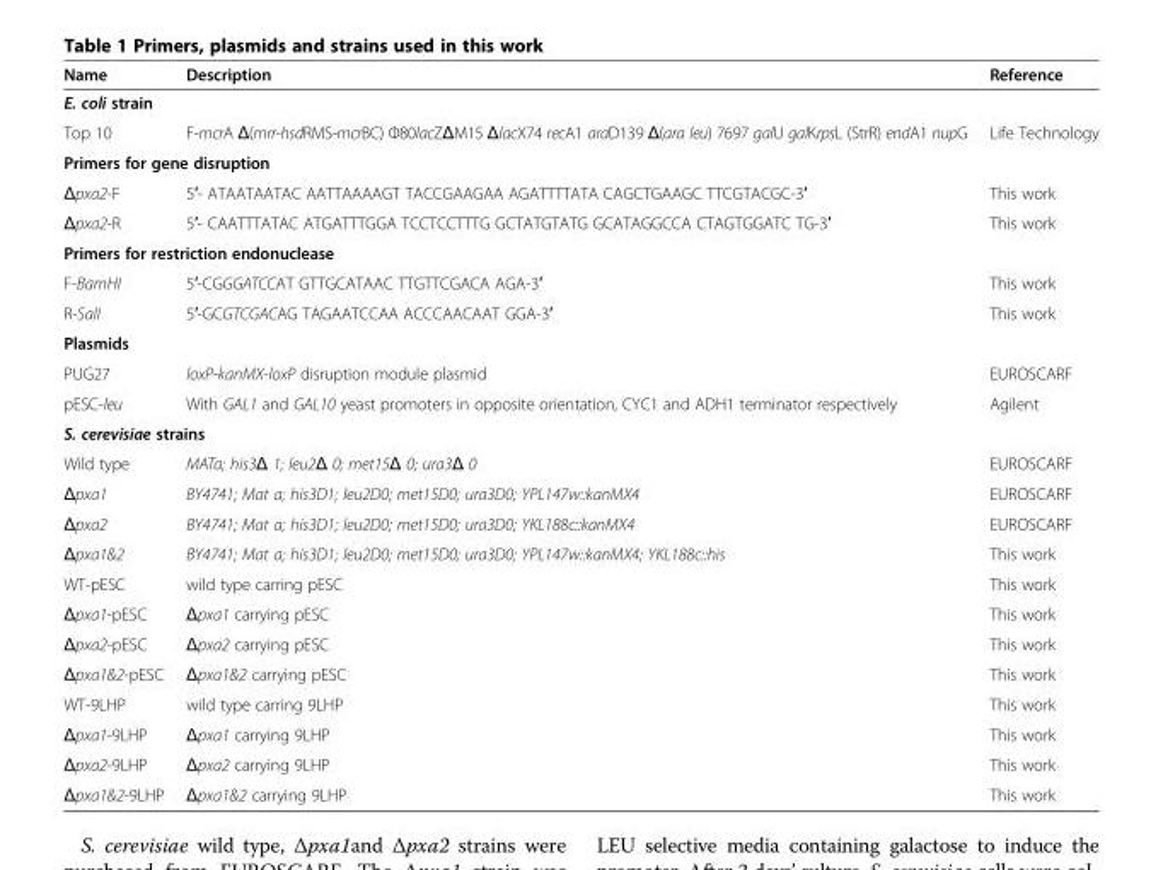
<table><thead><tr><td>Name</td><td>Description</td><td>Reference</td></tr></thead><tbody><tr><td colspan="3">E. coli strain</td></tr><tr><td>Top 10</td><td>F-mcrA Δ(mrr-hsdRMS-mcrBC) Φ80lacZΔM15 ΔlacX74 recA1 araD139 Δ(ara leu) 7697 galU galKrpsL (StrR) endA1 nupG</td><td>Life Technology</td></tr><tr><td colspan="3">Primers for gene disruption</td></tr><tr><td>Δpxa2-F</td><td>5′- ATAATAATAC AATTAAAAGT TACCGAAGAA AGATTTTATA CAGCTGAAGC TTCGTACGC-3′</td><td>This work</td></tr><tr><td>Δpxa2-R</td><td>5′- CAATTTATAC ATGATTTGGA TCCTCCTTTG GCTATGTATG GCATAGGCCA CTAGTGGATC TG-3′</td><td>This work</td></tr><tr><td colspan="3">Primers for restriction endonuclease</td></tr><tr><td>F-BamHI</td><td>5′-CGGGATCCAT GTTGCATAAC TTGTTCGACA AGA-3′</td><td>This work</td></tr><tr><td>R-SalI</td><td>5′-GCGTCGACAG TAGAATCCAA ACCCAACAAT GGA-3′</td><td>This work</td></tr><tr><td colspan="3">Plasmids</td></tr><tr><td>PUG27</td><td>loxP-kanMX-loxP disruption module plasmid</td><td>EUROSCARF</td></tr><tr><td>pESC-leu</td><td>With GAL1 and GAL10 yeast promoters in opposite orientation, CYC1 and ADH1 terminator respectively</td><td>Agilent</td></tr><tr><td colspan="3">S. cerevisiae strains</td></tr><tr><td>Wild type</td><td>MATa; his3Δ 1; leu2Δ 0; met15Δ 0; ura3Δ 0</td><td>EUROSCARF</td></tr><tr><td>Δpxa1</td><td>BY4741; Mat a; his3D1; leu2D0; met15D0; ura3D0; YPL147w::kanMX4</td><td>EUROSCARF</td></tr><tr><td>Δpxa2</td><td>BY4741; Mat a; his3D1; leu2D0; met15D0; ura3D0; YKL188c::kanMX4</td><td>EUROSCARF</td></tr><tr><td>Δpxa1&amp;2</td><td>BY4741; Mat a; his3D1; leu2D0; met15D0; ura3D0; YPL147w::kanMX4; YKL188c::his</td><td>This work</td></tr><tr><td>WT-pESC</td><td>wild type carring pESC</td><td>This work</td></tr><tr><td>Δpxa1-pESC</td><td>Δpxa1 carrying pESC</td><td>This work</td></tr><tr><td>Δpxa2-pESC</td><td>Δpxa2 carrying pESC</td><td>This work</td></tr><tr><td>Δpxa1&amp;2-pESC</td><td>Δpxa1&amp;2 carrying pESC</td><td>This work</td></tr><tr><td>WT-9LHP</td><td>wild type carring 9LHP</td><td>This work</td></tr><tr><td>Δpxa1-9LHP</td><td>Δpxa1 carrying 9LHP</td><td>This work</td></tr><tr><td>Δpxa2-9LHP</td><td>Δpxa2 carrying 9LHP</td><td>This work</td></tr><tr><td>Δpxa1&amp;2-9LHP</td><td>Δpxa1&amp;2 carrying 9LHP</td><td>This work</td></tr></tbody></table>